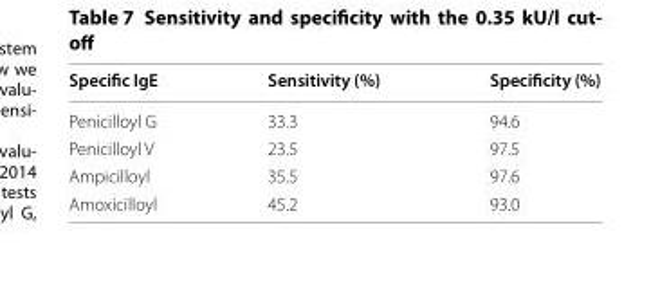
<table><thead><tr><td>Specific IgE</td><td>Sensitivity (%)</td><td>Specificity (%)</td></tr></thead><tbody><tr><td>Penicilloyl G</td><td>33.3</td><td>94.6</td></tr><tr><td>Penicilloyl V</td><td>23.5</td><td>97.5</td></tr><tr><td>Ampicilloyl</td><td>35.5</td><td>97.6</td></tr><tr><td>Amoxicilloyl</td><td>45.2</td><td>93.0</td></tr></tbody></table>